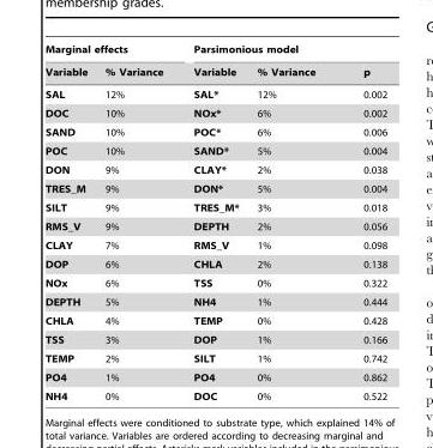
<table><thead><tr><td colspan="2">Marginal effects</td><td colspan="3">Parsimonious model</td></tr><tr><td>Variable</td><td>% Variance</td><td>Variable</td><td>% Variance</td><td>p</td></tr></thead><tbody><tr><td>SAL</td><td>12%</td><td>SAL*</td><td>12%</td><td>0.002</td></tr><tr><td>DOC</td><td>10%</td><td>NOx*</td><td>6%</td><td>0.002</td></tr><tr><td>SAND</td><td>10%</td><td>POC*</td><td>6%</td><td>0.006</td></tr><tr><td>POC</td><td>10%</td><td>SAND*</td><td>5%</td><td>0.004</td></tr><tr><td>DON</td><td>9%</td><td>CLAY*</td><td>2%</td><td>0.038</td></tr><tr><td>TRES_M</td><td>9%</td><td>DON*</td><td>5%</td><td>0.004</td></tr><tr><td>SILT</td><td>9%</td><td>TRES_M*</td><td>3%</td><td>0.018</td></tr><tr><td>RMS_V</td><td>9%</td><td>DEPTH</td><td>2%</td><td>0.056</td></tr><tr><td>CLAY</td><td>7%</td><td>RMS_V</td><td>1%</td><td>0.098</td></tr><tr><td>DOP</td><td>6%</td><td>CHLA</td><td>2%</td><td>0.138</td></tr><tr><td>NOx</td><td>6%</td><td>TSS</td><td>0%</td><td>0.322</td></tr><tr><td>DEPTH</td><td>5%</td><td>NH4</td><td>1%</td><td>0.444</td></tr><tr><td>CHLA</td><td>4%</td><td>TEMP</td><td>0%</td><td>0.428</td></tr><tr><td>TSS</td><td>3%</td><td>DOP</td><td>1%</td><td>0.166</td></tr><tr><td>TEMP</td><td>2%</td><td>SILT</td><td>1%</td><td>0.742</td></tr><tr><td>PO4</td><td>1%</td><td>PO4</td><td>0%</td><td>0.862</td></tr><tr><td>NH4</td><td>0%</td><td>DOC</td><td>0%</td><td>0.522</td></tr></tbody></table>